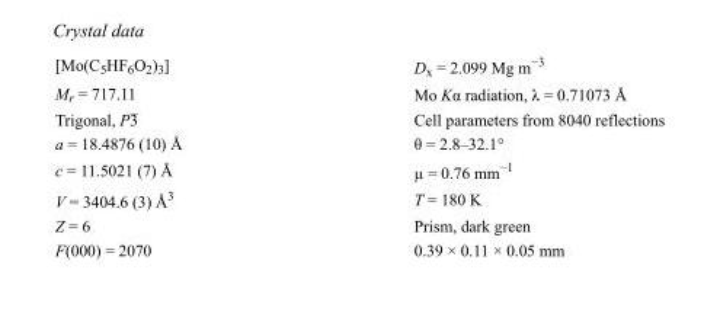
<table><tbody><tr><td>[Mo(C<sub>5</sub>HF<sub>6</sub>O<sub>2</sub>)<sub>3</sub>]</td><td>D<sub>x</sub> = 2.099 Mg m<sup>−3</sup></td></tr><tr><td>M<sub>r</sub> = 717.11</td><td>Mo Kα radiation, λ = 0.71073 Å</td></tr><tr><td>Trigonal, P3</td><td>Cell parameters from 8040 reflections</td></tr><tr><td>a = 18.4876 (10) Å</td><td>θ = 2.8–32.1°</td></tr><tr><td>c = 11.5021 (7) Å</td><td>µ = 0.76 mm<sup>−1</sup></td></tr><tr><td>V = 3404.6 (3) Å<sup>3</sup></td><td>T = 180 K</td></tr><tr><td>Z = 6</td><td>Prism, dark green</td></tr><tr><td>F(000) = 2070</td><td>0.39 × 0.11 × 0.05 mm</td></tr></tbody></table>